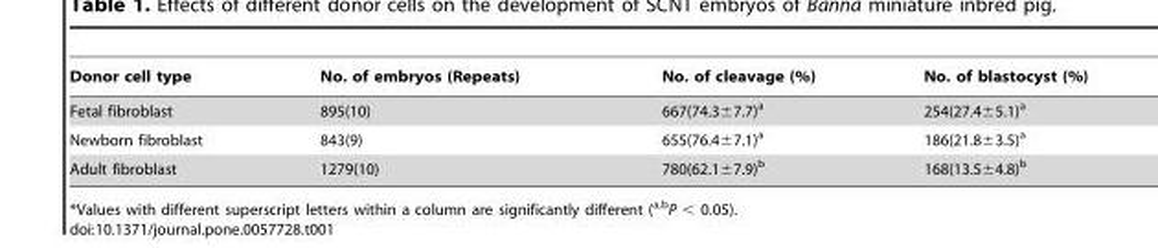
<table><thead><tr><td>Donor cell type</td><td>No. of embryos (Repeats)</td><td>No. of cleavage (%)</td><td>No. of blastocyst (%)</td></tr></thead><tbody><tr><td>Fetal fibroblast</td><td>895(10)</td><td>667(74.3±7.7)<sup>a</sup></td><td>254(27.4±5.1)<sup>a</sup></td></tr><tr><td>Newborn fibroblast</td><td>843(9)</td><td>655(76.4±7.1)<sup>a</sup></td><td>186(21.8±3.5)<sup>a</sup></td></tr><tr><td>Adult fibroblast</td><td>1279(10)</td><td>780(62.1±7.9)<sup>b</sup></td><td>168(13.5±4.8)<sup>b</sup></td></tr></tbody></table>